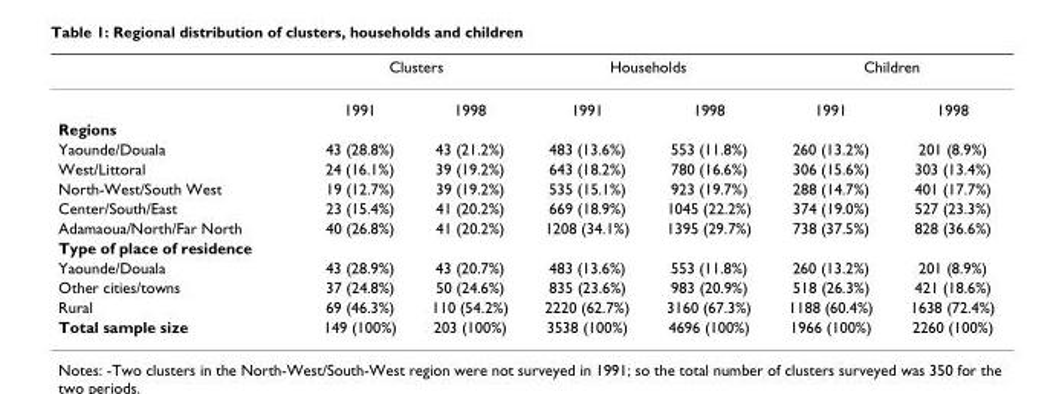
<table><thead><tr><td rowspan="2"></td><td colspan="2">Clusters</td><td colspan="2">Households</td><td colspan="2">Children</td></tr><tr><td>1991</td><td>1998</td><td>1991</td><td>1998</td><td>1991</td><td>1998</td></tr></thead><tbody><tr><td colspan="7">Regions</td></tr><tr><td>Yaounde/Douala</td><td>43 (28.8%)</td><td>43 (21.2%)</td><td>483 (13.6%)</td><td>553 (11.8%)</td><td>260 (13.2%)</td><td>201 (8.9%)</td></tr><tr><td>West/Littoral</td><td>24 (16.1%)</td><td>39 (19.2%)</td><td>643 (18.2%)</td><td>780 (16.6%)</td><td>306 (15.6%)</td><td>303 (13.4%)</td></tr><tr><td>North-West/South West</td><td>19 (12.7%)</td><td>39 (19.2%)</td><td>535 (15.1%)</td><td>923 (19.7%)</td><td>288 (14.7%)</td><td>401 (17.7%)</td></tr><tr><td>Center/South/East</td><td>23 (15.4%)</td><td>41 (20.2%)</td><td>669 (18.9%)</td><td>1045 (22.2%)</td><td>374 (19.0%)</td><td>527 (23.3%)</td></tr><tr><td>Adamaoua/North/Far North</td><td>40 (26.8%)</td><td>41 (20.2%)</td><td>1208 (34.1%)</td><td>1395 (29.7%)</td><td>738 (37.5%)</td><td>828 (36.6%)</td></tr><tr><td colspan="7">Type of place of residence</td></tr><tr><td>Yaounde/Douala</td><td>43 (28.9%)</td><td>43 (20.7%)</td><td>483 (13.6%)</td><td>553 (11.8%)</td><td>260 (13.2%)</td><td>201 (8.9%)</td></tr><tr><td>Other cities/towns</td><td>37 (24.8%)</td><td>50 (24.6%)</td><td>835 (23.6%)</td><td>983 (20.9%)</td><td>518 (26.3%)</td><td>421 (18.6%)</td></tr><tr><td>Rural</td><td>69 (46.3%)</td><td>110 (54.2%)</td><td>2220 (62.7%)</td><td>3160 (67.3%)</td><td>1188 (60.4%)</td><td>1638 (72.4%)</td></tr><tr><td>Total sample size</td><td>149 (100%)</td><td>203 (100%)</td><td>3538 (100%)</td><td>4696 (100%)</td><td>1966 (100%)</td><td>2260 (100%)</td></tr></tbody></table>